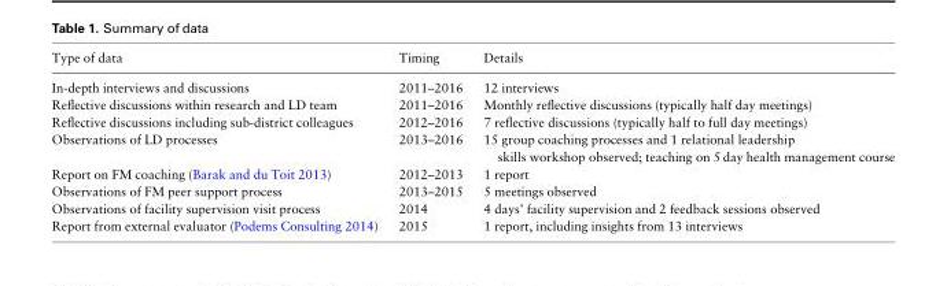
<table><thead><tr><td>Type of data</td><td>Timing</td><td>Details</td></tr></thead><tbody><tr><td>In-depth interviews and discussions</td><td>2011–2016</td><td>12 interviews</td></tr><tr><td>Reflective discussions within research and LD team</td><td>2011–2016</td><td>Monthly reflective discussions (typically half day meetings)</td></tr><tr><td>Reflective discussions including sub-district colleagues</td><td>2012–2016</td><td>7 reflective discussions (typically half to full day meetings)</td></tr><tr><td>Observations of LD processes</td><td>2013–2016</td><td>15 group coaching processes and 1 relational leadership skills workshop observed; teaching on 5 day health management course</td></tr><tr><td>Report on FM coaching (Barak and du Toit 2013)</td><td>2012–2013</td><td>1 report</td></tr><tr><td>Observations of FM peer support process</td><td>2013–2015</td><td>5 meetings observed</td></tr><tr><td>Observations of facility supervision visit process</td><td>2014</td><td>4 days’ facility supervision and 2 feedback sessions observed</td></tr><tr><td>Report from external evaluator (Podems Consulting 2014)</td><td>2015</td><td>1 report, including insights from 13 interviews</td></tr></tbody></table>